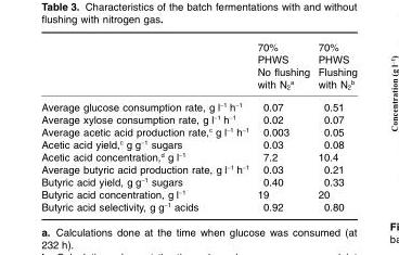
<table><thead><tr><td></td><td>70% PHWS No flushing with N<sub>2</sub><sup>a</sup></td><td>70% PHWS Flushing with N<sub>2</sub><sup>b</sup></td></tr></thead><tbody><tr><td>Average glucose consumption rate, g l<sup>−1</sup> h<sup>−1</sup></td><td>0.07</td><td>0.51</td></tr><tr><td>Average xylose consumption rate, g l<sup>−1</sup> h<sup>−1</sup></td><td>0.02</td><td>0.07</td></tr><tr><td>Average acetic acid production rate,<sup>c</sup> g l<sup>−1</sup> h<sup>−1</sup></td><td>0.003</td><td>0.05</td></tr><tr><td>Acetic acid yield,<sup>c</sup> g g<sup>−1</sup> sugars</td><td>0.03</td><td>0.08</td></tr><tr><td>Acetic acid concentration,<sup>d</sup> g l<sup>−1</sup></td><td>7.2</td><td>10.4</td></tr><tr><td>Average butyric acid production rate, g l<sup>−1</sup> h<sup>−1</sup></td><td>0.03</td><td>0.21</td></tr><tr><td>Butyric acid yield, g g<sup>−1</sup> sugars</td><td>0.40</td><td>0.33</td></tr><tr><td>Butyric acid concentration, g l<sup>−1</sup></td><td>19</td><td>20</td></tr><tr><td>Butyric acid selectivity, g g<sup>−1</sup> acids</td><td>0.92</td><td>0.80</td></tr></tbody></table>